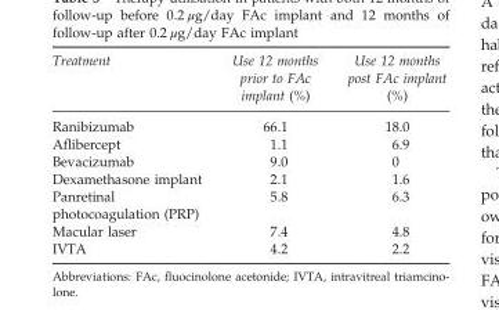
<table><thead><tr><td>Treatment</td><td>Use 12 months prior to FAc implant (%)</td><td>Use 12 months post FAc implant (%)</td></tr></thead><tbody><tr><td>Ranibizumab</td><td>66.1</td><td>18.0</td></tr><tr><td>Aflibercept</td><td>1.1</td><td>6.9</td></tr><tr><td>Bevacizumab</td><td>9.0</td><td>0</td></tr><tr><td>Dexamethasone implant</td><td>2.1</td><td>1.6</td></tr><tr><td>Panretinal photocoagulation (PRP)</td><td>5.8</td><td>6.3</td></tr><tr><td>Macular laser</td><td>7.4</td><td>4.8</td></tr><tr><td>IVTA</td><td>4.2</td><td>2.2</td></tr></tbody></table>